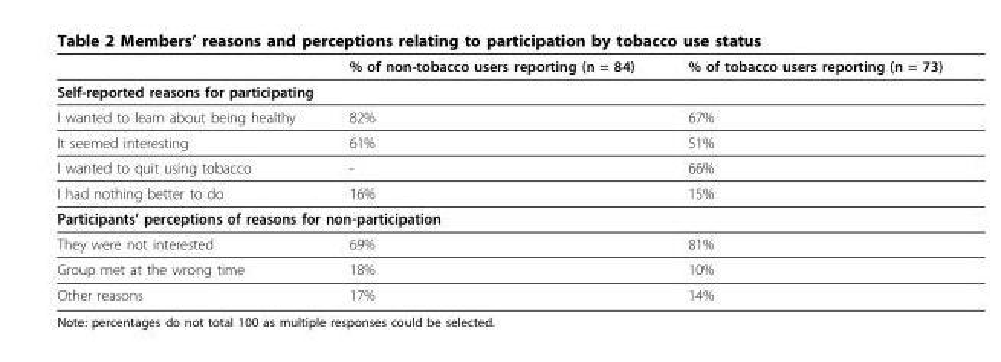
<table><thead><tr><td></td><td>% of non-tobacco users reporting (n = 84)</td><td>% of tobacco users reporting (n = 73)</td></tr></thead><tbody><tr><td colspan="3">Self-reported reasons for participating</td></tr><tr><td>I wanted to learn about being healthy</td><td>82%</td><td>67%</td></tr><tr><td>It seemed interesting</td><td>61%</td><td>51%</td></tr><tr><td>I wanted to quit using tobacco</td><td>-</td><td>66%</td></tr><tr><td>I had nothing better to do</td><td>16%</td><td>15%</td></tr><tr><td colspan="3">Participants’ perceptions of reasons for non-participation</td></tr><tr><td>They were not interested</td><td>69%</td><td>81%</td></tr><tr><td>Group met at the wrong time</td><td>18%</td><td>10%</td></tr><tr><td>Other reasons</td><td>17%</td><td>14%</td></tr></tbody></table>